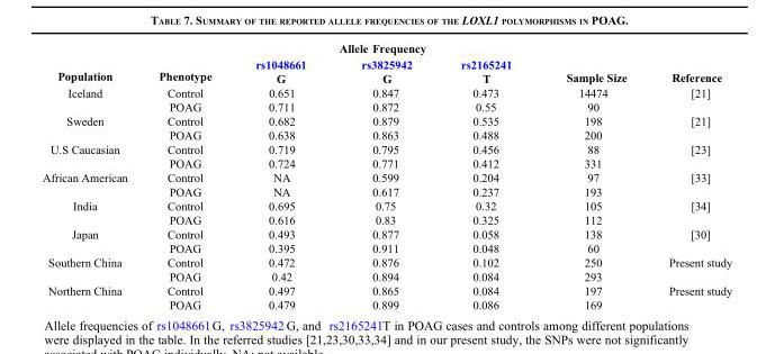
<table><thead><tr><td rowspan="2">Population</td><td rowspan="2">Phenotype</td><td colspan="3">Allele Frequency</td><td rowspan="2">Sample Size</td><td rowspan="2">Reference</td></tr><tr><td>rs1048661 G</td><td>rs3825942 G</td><td>rs2165241 T</td></tr></thead><tbody><tr><td rowspan="2">Iceland</td><td>Control</td><td>0.651</td><td>0.847</td><td>0.473</td><td>14474</td><td>[21]</td></tr><tr><td>POAG</td><td>0.711</td><td>0.872</td><td>0.55</td><td>90</td><td></td></tr><tr><td rowspan="2">Sweden</td><td>Control</td><td>0.682</td><td>0.879</td><td>0.535</td><td>198</td><td>[21]</td></tr><tr><td>POAG</td><td>0.638</td><td>0.863</td><td>0.488</td><td>200</td><td></td></tr><tr><td rowspan="2">U.S Caucasian</td><td>Control</td><td>0.719</td><td>0.795</td><td>0.456</td><td>88</td><td>[23]</td></tr><tr><td>POAG</td><td>0.724</td><td>0.771</td><td>0.412</td><td>331</td><td></td></tr><tr><td rowspan="2">African American</td><td>Control</td><td>NA</td><td>0.599</td><td>0.204</td><td>97</td><td>[33]</td></tr><tr><td>POAG</td><td>NA</td><td>0.617</td><td>0.237</td><td>193</td><td></td></tr><tr><td rowspan="2">India</td><td>Control</td><td>0.695</td><td>0.75</td><td>0.32</td><td>105</td><td>[34]</td></tr><tr><td>POAG</td><td>0.616</td><td>0.83</td><td>0.325</td><td>112</td><td></td></tr><tr><td rowspan="2">Japan</td><td>Control</td><td>0.493</td><td>0.877</td><td>0.058</td><td>138</td><td>[30]</td></tr><tr><td>POAG</td><td>0.395</td><td>0.911</td><td>0.048</td><td>60</td><td></td></tr><tr><td rowspan="2">Southern China</td><td>Control</td><td>0.472</td><td>0.876</td><td>0.102</td><td>250</td><td>Present study</td></tr><tr><td>POAG</td><td>0.42</td><td>0.894</td><td>0.084</td><td>293</td><td></td></tr><tr><td rowspan="2">Northern China</td><td>Control</td><td>0.497</td><td>0.865</td><td>0.084</td><td>197</td><td>Present study</td></tr><tr><td>POAG</td><td>0.479</td><td>0.899</td><td>0.086</td><td>169</td><td></td></tr></tbody></table>